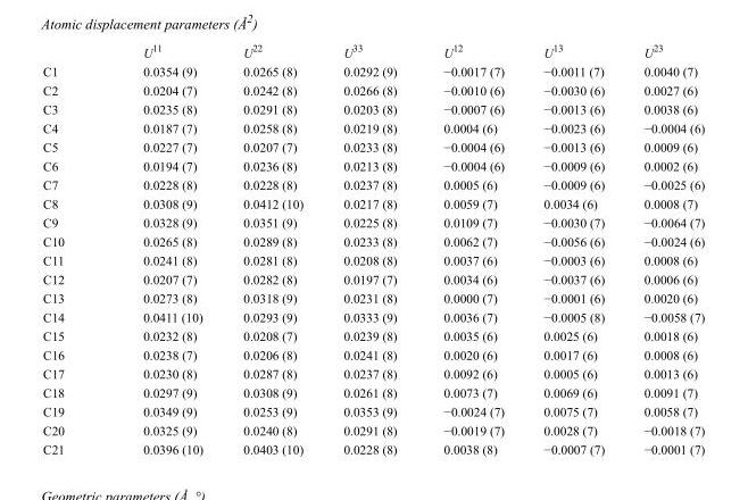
<table><thead><tr><td></td><td>U<sup>11</sup></td><td>U<sup>22</sup></td><td>U<sup>33</sup></td><td>U<sup>12</sup></td><td>U<sup>13</sup></td><td>U<sup>23</sup></td></tr></thead><tbody><tr><td>C1</td><td>0.0354 (9)</td><td>0.0265 (8)</td><td>0.0292 (9)</td><td>−0.0017 (7)</td><td>−0.0011 (7)</td><td>0.0040 (7)</td></tr><tr><td>C2</td><td>0.0204 (7)</td><td>0.0242 (8)</td><td>0.0266 (8)</td><td>−0.0010 (6)</td><td>−0.0030 (6)</td><td>0.0027 (6)</td></tr><tr><td>C3</td><td>0.0235 (8)</td><td>0.0291 (8)</td><td>0.0203 (8)</td><td>−0.0007 (6)</td><td>−0.0013 (6)</td><td>0.0038 (6)</td></tr><tr><td>C4</td><td>0.0187 (7)</td><td>0.0258 (8)</td><td>0.0219 (8)</td><td>0.0004 (6)</td><td>−0.0023 (6)</td><td>−0.0004 (6)</td></tr><tr><td>C5</td><td>0.0227 (7)</td><td>0.0207 (7)</td><td>0.0233 (8)</td><td>−0.0004 (6)</td><td>−0.0013 (6)</td><td>0.0009 (6)</td></tr><tr><td>C6</td><td>0.0194 (7)</td><td>0.0236 (8)</td><td>0.0213 (8)</td><td>−0.0004 (6)</td><td>−0.0009 (6)</td><td>0.0002 (6)</td></tr><tr><td>C7</td><td>0.0228 (8)</td><td>0.0228 (8)</td><td>0.0237 (8)</td><td>0.0005 (6)</td><td>−0.0009 (6)</td><td>−0.0025 (6)</td></tr><tr><td>C8</td><td>0.0308 (9)</td><td>0.0412 (10)</td><td>0.0217 (8)</td><td>0.0059 (7)</td><td>0.0034 (6)</td><td>0.0008 (7)</td></tr><tr><td>C9</td><td>0.0328 (9)</td><td>0.0351 (9)</td><td>0.0225 (8)</td><td>0.0109 (7)</td><td>−0.0030 (7)</td><td>−0.0064 (7)</td></tr><tr><td>C10</td><td>0.0265 (8)</td><td>0.0289 (8)</td><td>0.0233 (8)</td><td>0.0062 (7)</td><td>−0.0056 (6)</td><td>−0.0024 (6)</td></tr><tr><td>C11</td><td>0.0241 (8)</td><td>0.0281 (8)</td><td>0.0208 (8)</td><td>0.0037 (6)</td><td>−0.0003 (6)</td><td>0.0008 (6)</td></tr><tr><td>C12</td><td>0.0207 (7)</td><td>0.0282 (8)</td><td>0.0197 (7)</td><td>0.0034 (6)</td><td>−0.0037 (6)</td><td>0.0006 (6)</td></tr><tr><td>C13</td><td>0.0273 (8)</td><td>0.0318 (9)</td><td>0.0231 (8)</td><td>0.0000 (7)</td><td>−0.0001 (6)</td><td>0.0020 (6)</td></tr><tr><td>C14</td><td>0.0411 (10)</td><td>0.0293 (9)</td><td>0.0333 (9)</td><td>0.0036 (7)</td><td>−0.0005 (8)</td><td>−0.0058 (7)</td></tr><tr><td>C15</td><td>0.0232 (8)</td><td>0.0208 (7)</td><td>0.0239 (8)</td><td>0.0035 (6)</td><td>0.0025 (6)</td><td>0.0018 (6)</td></tr><tr><td>C16</td><td>0.0238 (7)</td><td>0.0206 (8)</td><td>0.0241 (8)</td><td>0.0020 (6)</td><td>0.0017 (6)</td><td>0.0008 (6)</td></tr><tr><td>C17</td><td>0.0230 (8)</td><td>0.0287 (8)</td><td>0.0237 (8)</td><td>0.0092 (6)</td><td>0.0005 (6)</td><td>0.0013 (6)</td></tr><tr><td>C18</td><td>0.0297 (9)</td><td>0.0308 (9)</td><td>0.0261 (8)</td><td>0.0073 (7)</td><td>0.0069 (6)</td><td>0.0091 (7)</td></tr><tr><td>C19</td><td>0.0349 (9)</td><td>0.0253 (9)</td><td>0.0353 (9)</td><td>−0.0024 (7)</td><td>0.0075 (7)</td><td>0.0058 (7)</td></tr><tr><td>C20</td><td>0.0325 (9)</td><td>0.0240 (8)</td><td>0.0291 (8)</td><td>−0.0019 (7)</td><td>0.0028 (7)</td><td>−0.0018 (7)</td></tr><tr><td>C21</td><td>0.0396 (10)</td><td>0.0403 (10)</td><td>0.0228 (8)</td><td>0.0038 (8)</td><td>−0.0007 (7)</td><td>−0.0001 (7)</td></tr></tbody></table>